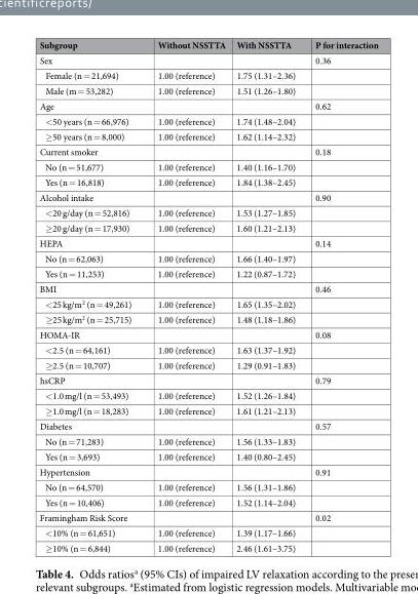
<table><thead><tr><td>Subgroup</td><td>Without NSSTTA</td><td>With NSSTTA</td><td>P for interaction</td></tr></thead><tbody><tr><td>Sex</td><td></td><td></td><td>0.36</td></tr><tr><td>Female (n = 21,694)</td><td>1.00 (reference)</td><td>1.75 (1.31–2.36)</td><td></td></tr><tr><td>Male (m = 53,282)</td><td>1.00 (reference)</td><td>1.51 (1.26–1.80)</td><td></td></tr><tr><td>Age</td><td></td><td></td><td>0.62</td></tr><tr><td>&lt;50 years (n = 66,976)</td><td>1.00 (reference)</td><td>1.74 (1.48–2.04)</td><td></td></tr><tr><td>≥50 years (n = 8,000)</td><td>1.00 (reference)</td><td>1.62 (1.14–2.32)</td><td></td></tr><tr><td>Current smoker</td><td></td><td></td><td>0.18</td></tr><tr><td>No (n = 51,677)</td><td>1.00 (reference)</td><td>1.40 (1.16–1.70)</td><td></td></tr><tr><td>Yes (n = 16,818)</td><td>1.00 (reference)</td><td>1.84 (1.38–2.45)</td><td></td></tr><tr><td>Alcohol intake</td><td></td><td></td><td>0.90</td></tr><tr><td>&lt;20 g/day (n = 52,816)</td><td>1.00 (reference)</td><td>1.53 (1.27–1.85)</td><td></td></tr><tr><td>≥20 g/day (n = 17,930)</td><td>1.00 (reference)</td><td>1.60 (1.21–2.13)</td><td></td></tr><tr><td>HEPA</td><td></td><td></td><td>0.14</td></tr><tr><td>No (n = 62,063)</td><td>1.00 (reference)</td><td>1.66 (1.40–1.97)</td><td></td></tr><tr><td>Yes (n = 11,253)</td><td>1.00 (reference)</td><td>1.22 (0.87–1.72)</td><td></td></tr><tr><td>BMI</td><td></td><td></td><td>0.46</td></tr><tr><td>&lt;25 kg/m<sup>2</sup> (n = 49,261)</td><td>1.00 (reference)</td><td>1.65 (1.35–2.02)</td><td></td></tr><tr><td>≥25 kg/m<sup>2</sup> (n = 25,715)</td><td>1.00 (reference)</td><td>1.48 (1.18–1.86)</td><td></td></tr><tr><td>HOMA-IR</td><td></td><td></td><td>0.08</td></tr><tr><td>&lt;2.5 (n = 64,161)</td><td>1.00 (reference)</td><td>1.63 (1.37–1.92)</td><td></td></tr><tr><td>≥2.5 (n = 10,707)</td><td>1.00 (reference)</td><td>1.29 (0.91–1.83)</td><td></td></tr><tr><td>hsCRP</td><td></td><td></td><td>0.79</td></tr><tr><td>&lt;1.0 mg/l (n = 53,493)</td><td>1.00 (reference)</td><td>1.52 (1.26–1.84)</td><td></td></tr><tr><td>≥1.0 mg/l (n = 18,283)</td><td>1.00 (reference)</td><td>1.61 (1.21–2.13)</td><td></td></tr><tr><td>Diabetes</td><td></td><td></td><td>0.57</td></tr><tr><td>No (n = 71,283)</td><td>1.00 (reference)</td><td>1.56 (1.33–1.83)</td><td></td></tr><tr><td>Yes (n = 3,693)</td><td>1.00 (reference)</td><td>1.40 (0.80–2.45)</td><td></td></tr><tr><td>Hypertension</td><td></td><td></td><td>0.91</td></tr><tr><td>No (n = 64,570)</td><td>1.00 (reference)</td><td>1.56 (1.31–1.86)</td><td></td></tr><tr><td>Yes (n = 10,406)</td><td>1.00 (reference)</td><td>1.52 (1.14–2.04)</td><td></td></tr><tr><td>Framingham Risk Score</td><td></td><td></td><td>0.02</td></tr><tr><td>&lt;10% (n = 61,651)</td><td>1.00 (reference)</td><td>1.39 (1.17–1.66)</td><td></td></tr><tr><td>≥10% (n = 6,844)</td><td>1.00 (reference)</td><td>2.46 (1.61–3.75)</td><td></td></tr></tbody></table>